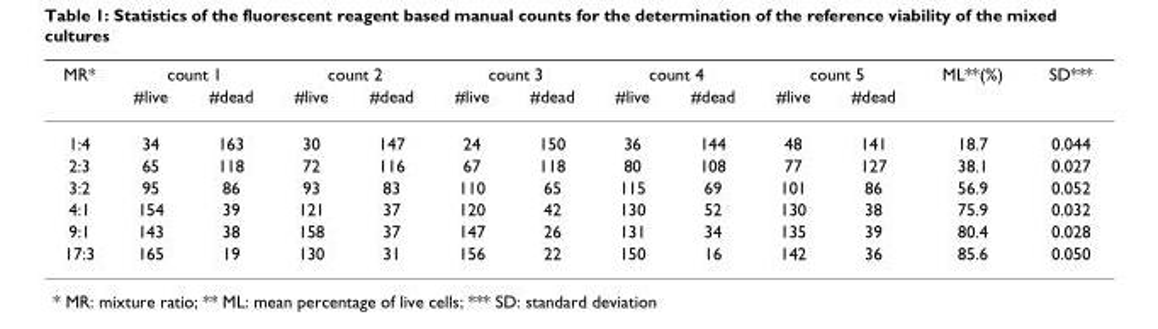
<table><thead><tr><td rowspan="2">MR*</td><td colspan="2">count 1</td><td colspan="2">count 2</td><td colspan="2">count 3</td><td colspan="2">count 4</td><td colspan="2">count 5</td><td rowspan="2">ML**(%)</td><td rowspan="2">SD***</td></tr><tr><td>#live</td><td>#dead</td><td>#live</td><td>#dead</td><td>#live</td><td>#dead</td><td>#live</td><td>#dead</td><td>#live</td><td>#dead</td></tr></thead><tbody><tr><td>1:4</td><td>34</td><td>163</td><td>30</td><td>147</td><td>24</td><td>150</td><td>36</td><td>144</td><td>48</td><td>141</td><td>18.7</td><td>0.044</td></tr><tr><td>2:3</td><td>65</td><td>118</td><td>72</td><td>116</td><td>67</td><td>118</td><td>80</td><td>108</td><td>77</td><td>127</td><td>38.1</td><td>0.027</td></tr><tr><td>3:2</td><td>95</td><td>86</td><td>93</td><td>83</td><td>110</td><td>65</td><td>115</td><td>69</td><td>101</td><td>86</td><td>56.9</td><td>0.052</td></tr><tr><td>4:1</td><td>154</td><td>39</td><td>121</td><td>37</td><td>120</td><td>42</td><td>130</td><td>52</td><td>130</td><td>38</td><td>75.9</td><td>0.032</td></tr><tr><td>9:1</td><td>143</td><td>38</td><td>158</td><td>37</td><td>147</td><td>26</td><td>131</td><td>34</td><td>135</td><td>39</td><td>80.4</td><td>0.028</td></tr><tr><td>17:3</td><td>165</td><td>19</td><td>130</td><td>31</td><td>156</td><td>22</td><td>150</td><td>16</td><td>142</td><td>36</td><td>85.6</td><td>0.050</td></tr></tbody></table>